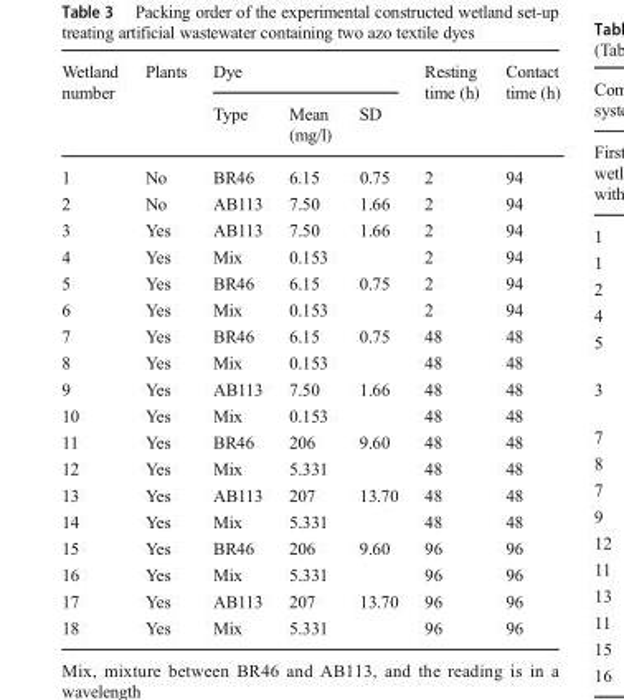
<table><thead><tr><td rowspan="2">Wetland number</td><td rowspan="2">Plants</td><td colspan="3">Dye</td><td rowspan="2">Resting time (h)</td><td rowspan="2">Contact time (h)</td></tr><tr><td>Type</td><td>Mean (mg/l)</td><td>SD</td></tr></thead><tbody><tr><td>1</td><td>No</td><td>BR46</td><td>6.15</td><td>0.75</td><td>2</td><td>94</td></tr><tr><td>2</td><td>No</td><td>AB113</td><td>7.50</td><td>1.66</td><td>2</td><td>94</td></tr><tr><td>3</td><td>Yes</td><td>AB113</td><td>7.50</td><td>1.66</td><td>2</td><td>94</td></tr><tr><td>4</td><td>Yes</td><td>Mix</td><td>0.153</td><td></td><td>2</td><td>94</td></tr><tr><td>5</td><td>Yes</td><td>BR46</td><td>6.15</td><td>0.75</td><td>2</td><td>94</td></tr><tr><td>6</td><td>Yes</td><td>Mix</td><td>0.153</td><td></td><td>2</td><td>94</td></tr><tr><td>7</td><td>Yes</td><td>BR46</td><td>6.15</td><td>0.75</td><td>48</td><td>48</td></tr><tr><td>8</td><td>Yes</td><td>Mix</td><td>0.153</td><td></td><td>48</td><td>48</td></tr><tr><td>9</td><td>Yes</td><td>AB113</td><td>7.50</td><td>1.66</td><td>48</td><td>48</td></tr><tr><td>10</td><td>Yes</td><td>Mix</td><td>0.153</td><td></td><td>48</td><td>48</td></tr><tr><td>11</td><td>Yes</td><td>BR46</td><td>206</td><td>9.60</td><td>48</td><td>48</td></tr><tr><td>12</td><td>Yes</td><td>Mix</td><td>5.331</td><td></td><td>48</td><td>48</td></tr><tr><td>13</td><td>Yes</td><td>AB113</td><td>207</td><td>13.70</td><td>48</td><td>48</td></tr><tr><td>14</td><td>Yes</td><td>Mix</td><td>5.331</td><td></td><td>48</td><td>48</td></tr><tr><td>15</td><td>Yes</td><td>BR46</td><td>206</td><td>9.60</td><td>96</td><td>96</td></tr><tr><td>16</td><td>Yes</td><td>Mix</td><td>5.331</td><td></td><td>96</td><td>96</td></tr><tr><td>17</td><td>Yes</td><td>AB113</td><td>207</td><td>13.70</td><td>96</td><td>96</td></tr><tr><td>18</td><td>Yes</td><td>Mix</td><td>5.331</td><td></td><td>96</td><td>96</td></tr></tbody></table>